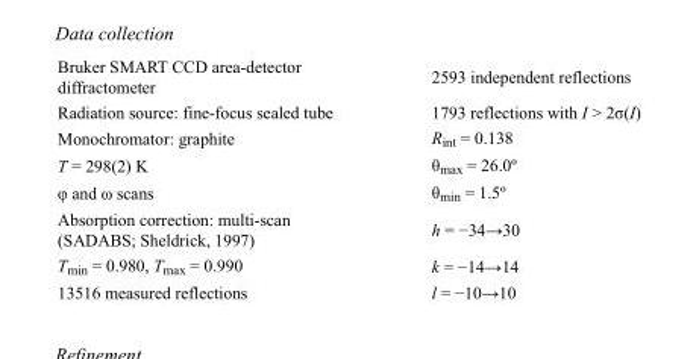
<table><tbody><tr><td>Bruker SMART CCD area-detector diffractometer</td><td>2593 independent reflections</td></tr><tr><td>Radiation source: fine-focus sealed tube</td><td>1793 reflections with I &gt; 2σ(I)</td></tr><tr><td>Monochromator: graphite</td><td>R<sub>int</sub> = 0.138</td></tr><tr><td>T = 298(2) K</td><td>θ<sub>max</sub> = 26.0º</td></tr><tr><td>φ and ω scans</td><td>θ<sub>min</sub> = 1.5º</td></tr><tr><td>Absorption correction: multi-scan (SADABS; Sheldrick, 1997)</td><td>h = −34→30</td></tr><tr><td>T<sub>min</sub> = 0.980, T<sub>max</sub> = 0.990</td><td>k = −14→14</td></tr><tr><td>13516 measured reflections</td><td>l = −10→10</td></tr></tbody></table>